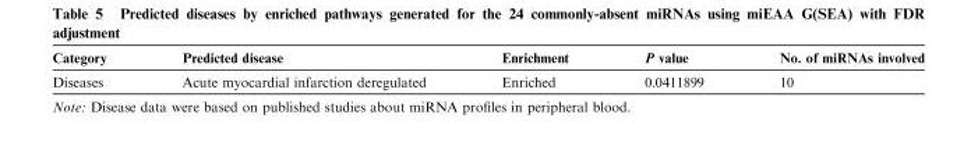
<table><thead><tr><td>Category</td><td>Predicted disease</td><td>Enrichment</td><td>P value</td><td>No. of miRNAs involved</td></tr></thead><tbody><tr><td>Diseases</td><td>Acute myocardial infarction deregulated</td><td>Enriched</td><td>0.0411899</td><td>10</td></tr></tbody></table>